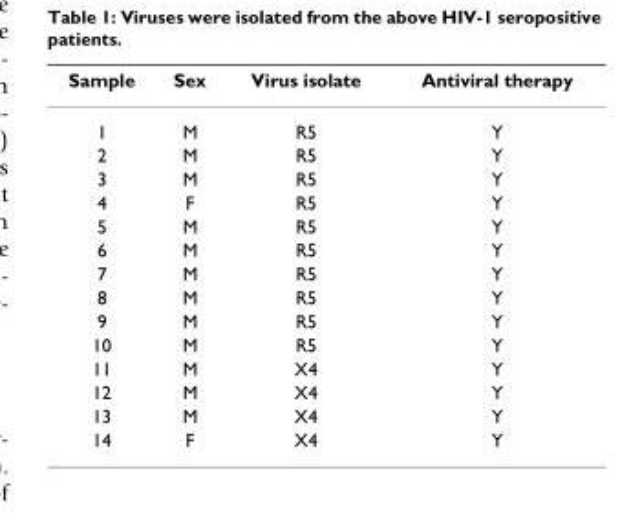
<table><thead><tr><td>Sample</td><td>Sex</td><td>Virus isolate</td><td>Antiviral therapy</td></tr></thead><tbody><tr><td>1</td><td>M</td><td>R5</td><td>Y</td></tr><tr><td>2</td><td>M</td><td>R5</td><td>Y</td></tr><tr><td>3</td><td>M</td><td>R5</td><td>Y</td></tr><tr><td>4</td><td>F</td><td>R5</td><td>Y</td></tr><tr><td>5</td><td>M</td><td>R5</td><td>Y</td></tr><tr><td>6</td><td>M</td><td>R5</td><td>Y</td></tr><tr><td>7</td><td>M</td><td>R5</td><td>Y</td></tr><tr><td>8</td><td>M</td><td>R5</td><td>Y</td></tr><tr><td>9</td><td>M</td><td>R5</td><td>Y</td></tr><tr><td>10</td><td>M</td><td>R5</td><td>Y</td></tr><tr><td>11</td><td>M</td><td>X4</td><td>Y</td></tr><tr><td>12</td><td>M</td><td>X4</td><td>Y</td></tr><tr><td>13</td><td>M</td><td>X4</td><td>Y</td></tr><tr><td>14</td><td>F</td><td>X4</td><td>Y</td></tr></tbody></table>